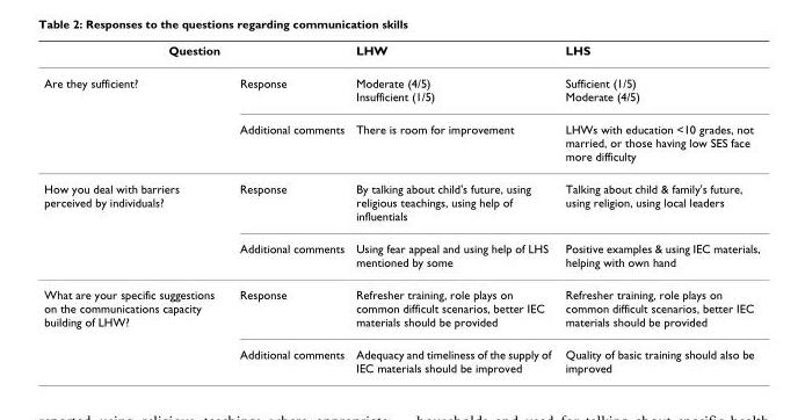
<table><thead><tr><td colspan="2">Question</td><td rowspan="2">LHW Moderate (4/5) Insufficient (1/5)</td><td rowspan="2">LHS Sufficient (1/5) Moderate (4/5)</td></tr><tr><td>Are they sufficient?</td><td>Response</td></tr></thead><tbody><tr><td></td><td>Additional comments</td><td>There is room for improvement</td><td>LHWs with education &lt;10 grades, not married, or those having low SES face more difficulty</td></tr><tr><td rowspan="2">How you deal with barriers perceived by individuals?</td><td>Response</td><td>By talking about child&#x27;s future, using religious teachings, using help of influentials</td><td>Talking about child &amp; family&#x27;s future, using religion, using local leaders</td></tr><tr><td>Additional comments</td><td>Using fear appeal and using help of LHS mentioned by some</td><td>Positive examples &amp; using IEC materials, helping with own hand</td></tr><tr><td rowspan="2">What are your specific suggestions on the communications capacity building of LHW?</td><td>Response</td><td>Refresher training, role plays on common difficult scenarios, better IEC materials should be provided</td><td>Refresher training, role plays on common difficult scenarios, better IEC materials should be provided</td></tr><tr><td>Additional comments</td><td>Adequacy and timeliness of the supply of IEC materials should be improved</td><td>Quality of basic training should also be improved</td></tr></tbody></table>